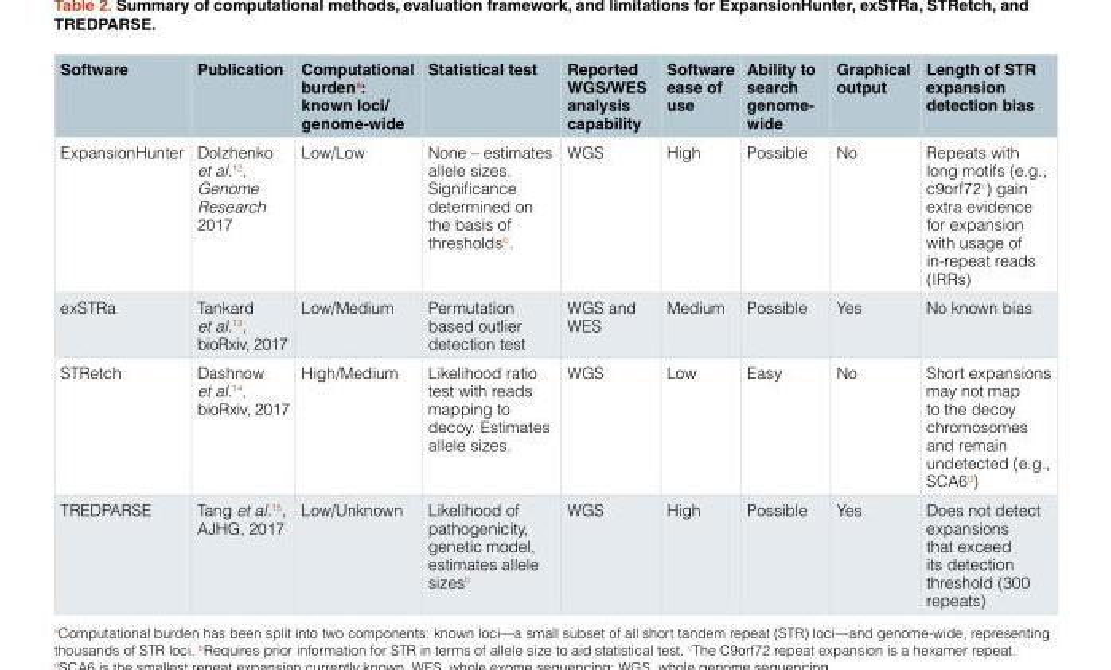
<table><thead><tr><td>Software</td><td>Publication</td><td>Computational burden<sup>a</sup>: known loci/ genome-wide</td><td>Statistical test</td><td>Reported WGS/WES analysis capability</td><td>Software ease of use</td><td>Ability to search genome- wide</td><td>Graphical output</td><td>Length of STR expansion detection bias</td></tr></thead><tbody><tr><td>ExpansionHunter</td><td>Dolzhenko et al.<sup>12</sup>, Genome Research 2017</td><td>Low/Low</td><td>None – estimates allele sizes. Significance determined on the basis of thresholds<sup>b</sup>.</td><td>WGS</td><td>High</td><td>Possible</td><td>No</td><td>Repeats with long motifs (e.g., c9orf72<sup>c</sup>) gain extra evidence for expansion with usage of in-repeat reads (IRRs)</td></tr><tr><td>exSTRa</td><td>Tankard et al.<sup>13</sup>, bioRxiv, 2017</td><td>Low/Medium</td><td>Permutation based outlier detection test</td><td>WGS and WES</td><td>Medium</td><td>Possible</td><td>Yes</td><td>No known bias</td></tr><tr><td>STRetch</td><td>Dashnow et al.<sup>14</sup>, bioRxiv, 2017</td><td>High/Medium</td><td>Likelihood ratio test with reads mapping to decoy. Estimates allele sizes.</td><td>WGS</td><td>Low</td><td>Easy</td><td>No</td><td>Short expansions may not map to the decoy chromosomes and remain undetected (e.g., SCA6<sup>d</sup>)</td></tr><tr><td>TREDPARSE</td><td>Tang et al.<sup>15</sup>, AJHG, 2017</td><td>Low/Unknown</td><td>Likelihood of pathogenicity, genetic model, estimates allele sizes<sup>b</sup></td><td>WGS</td><td>High</td><td>Possible</td><td>Yes</td><td>Does not detect expansions that exceed its detection threshold (300 repeats)</td></tr></tbody></table>